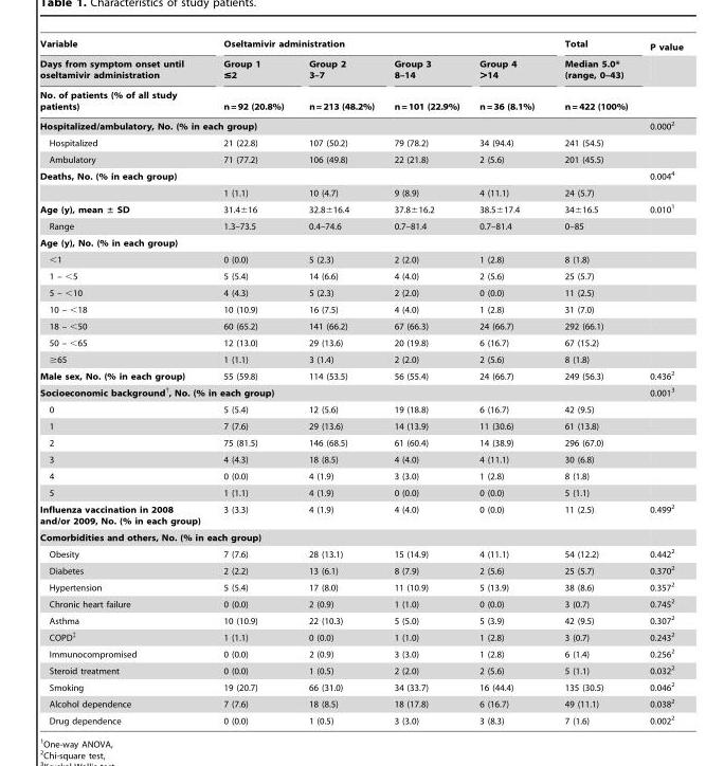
<table><thead><tr><td rowspan="3">Variable Days from symptom onset until oseltamivir administration No. of patients (% of all study patients)</td><td colspan="4">Oseltamivir administration</td><td rowspan="3">Total Median 5.0* (range, 0–43) n=422 (100%)</td><td rowspan="3">P value</td></tr><tr><td rowspan="2">Group 1 ≤2 n=92 (20.8%)</td><td rowspan="2">Group 2 3–7 n=213 (48.2%)</td><td rowspan="2">Group 3 8–14 n=101 (22.9%)</td><td rowspan="2">Group 4 &gt;14 n=36 (8.1%)</td></tr><tr></tr></thead><tbody><tr><td colspan="6">Hospitalized/ambulatory, No. (% in each group)</td><td>0.000<sup>2</sup></td></tr><tr><td>Hospitalized</td><td>21 (22.8)</td><td>107 (50.2)</td><td>79 (78.2)</td><td>34 (94.4)</td><td>241 (54.5)</td><td></td></tr><tr><td>Ambulatory</td><td>71 (77.2)</td><td>106 (49.8)</td><td>22 (21.8)</td><td>2 (5.6)</td><td>201 (45.5)</td><td></td></tr><tr><td colspan="6">Deaths, No. (% in each group)</td><td>0.004<sup>4</sup></td></tr><tr><td></td><td>1 (1.1)</td><td>10 (4.7)</td><td>9 (8.9)</td><td>4 (11.1)</td><td>24 (5.7)</td><td></td></tr><tr><td>Age (y), mean ± SD</td><td>31.4±16</td><td>32.8±16.4</td><td>37.8±16.2</td><td>38.5±17.4</td><td>34±16.5</td><td>0.010<sup>1</sup></td></tr><tr><td>Range</td><td>1.3–73.5</td><td>0.4–74.6</td><td>0.7–81.4</td><td>0.7–81.4</td><td>0–85</td><td></td></tr><tr><td colspan="7">Age (y), No. (% in each group)</td></tr><tr><td>&lt;1</td><td>0 (0.0)</td><td>5 (2.3)</td><td>2 (2.0)</td><td>1 (2.8)</td><td>8 (1.8)</td><td></td></tr><tr><td>1 – &lt;5</td><td>5 (5.4)</td><td>14 (6.6)</td><td>4 (4.0)</td><td>2 (5.6)</td><td>25 (5.7)</td><td></td></tr><tr><td>5 – &lt;10</td><td>4 (4.3)</td><td>5 (2.3)</td><td>2 (2.0)</td><td>0 (0.0)</td><td>11 (2.5)</td><td></td></tr><tr><td>10 – &lt;18</td><td>10 (10.9)</td><td>16 (7.5)</td><td>4 (4.0)</td><td>1 (2.8)</td><td>31 (7.0)</td><td></td></tr><tr><td>18 – &lt;50</td><td>60 (65.2)</td><td>141 (66.2)</td><td>67 (66.3)</td><td>24 (66.7)</td><td>292 (66.1)</td><td></td></tr><tr><td>50 – &lt;65</td><td>12 (13.0)</td><td>29 (13.6)</td><td>20 (19.8)</td><td>6 (16.7)</td><td>67 (15.2)</td><td></td></tr><tr><td>≥65</td><td>1 (1.1)</td><td>3 (1.4)</td><td>2 (2.0)</td><td>2 (5.6)</td><td>8 (1.8)</td><td></td></tr><tr><td>Male sex, No. (% in each group)</td><td>55 (59.8)</td><td>114 (53.5)</td><td>56 (55.4)</td><td>24 (66.7)</td><td>249 (56.3)</td><td>0.436<sup>2</sup></td></tr><tr><td colspan="6">Socioeconomic background†, No. (% in each group)</td><td>0.001<sup>3</sup></td></tr><tr><td>0</td><td>5 (5.4)</td><td>12 (5.6)</td><td>19 (18.8)</td><td>6 (16.7)</td><td>42 (9.5)</td><td></td></tr><tr><td>1</td><td>7 (7.6)</td><td>29 (13.6)</td><td>14 (13.9)</td><td>11 (30.6)</td><td>61 (13.8)</td><td></td></tr><tr><td>2</td><td>75 (81.5)</td><td>146 (68.5)</td><td>61 (60.4)</td><td>14 (38.9)</td><td>296 (67.0)</td><td></td></tr><tr><td>3</td><td>4 (4.3)</td><td>18 (8.5)</td><td>4 (4.0)</td><td>4 (11.1)</td><td>30 (6.8)</td><td></td></tr><tr><td>4</td><td>0 (0.0)</td><td>4 (1.9)</td><td>3 (3.0)</td><td>1 (2.8)</td><td>8 (1.8)</td><td></td></tr><tr><td>5</td><td>1 (1.1)</td><td>4 (1.9)</td><td>0 (0.0)</td><td>0 (0.0)</td><td>5 (1.1)</td><td></td></tr><tr><td>Influenza vaccination in 2008 and/or 2009, No. (% in each group)</td><td>3 (3.3)</td><td>4 (1.9)</td><td>4 (4.0)</td><td>0 (0.0)</td><td>11 (2.5)</td><td>0.499<sup>2</sup></td></tr><tr><td colspan="7">Comorbidities and others, No. (% in each group)</td></tr><tr><td>Obesity</td><td>7 (7.6)</td><td>28 (13.1)</td><td>15 (14.9)</td><td>4 (11.1)</td><td>54 (12.2)</td><td>0.442<sup>2</sup></td></tr><tr><td>Diabetes</td><td>2 (2.2)</td><td>13 (6.1)</td><td>8 (7.9)</td><td>2 (5.6)</td><td>25 (5.7)</td><td>0.370<sup>2</sup></td></tr><tr><td>Hypertension</td><td>5 (5.4)</td><td>17 (8.0)</td><td>11 (10.9)</td><td>5 (13.9)</td><td>38 (8.6)</td><td>0.357<sup>2</sup></td></tr><tr><td>Chronic heart failure</td><td>0 (0.0)</td><td>2 (0.9)</td><td>1 (1.0)</td><td>0 (0.0)</td><td>3 (0.7)</td><td>0.745<sup>2</sup></td></tr><tr><td>Asthma</td><td>10 (10.9)</td><td>22 (10.3)</td><td>5 (5.0)</td><td>5 (3.9)</td><td>42 (9.5)</td><td>0.307<sup>2</sup></td></tr><tr><td>COPD‡</td><td>1 (1.1)</td><td>0 (0.0)</td><td>1 (1.0)</td><td>1 (2.8)</td><td>3 (0.7)</td><td>0.243<sup>2</sup></td></tr><tr><td>Immunocompromised</td><td>0 (0.0)</td><td>2 (0.9)</td><td>3 (3.0)</td><td>1 (2.8)</td><td>6 (1.4)</td><td>0.256<sup>2</sup></td></tr><tr><td>Steroid treatment</td><td>0 (0.0)</td><td>1 (0.5)</td><td>2 (2.0)</td><td>2 (5.6)</td><td>5 (1.1)</td><td>0.032<sup>2</sup></td></tr><tr><td>Smoking</td><td>19 (20.7)</td><td>66 (31.0)</td><td>34 (33.7)</td><td>16 (44.4)</td><td>135 (30.5)</td><td>0.046<sup>2</sup></td></tr><tr><td>Alcohol dependence</td><td>7 (7.6)</td><td>18 (8.5)</td><td>18 (17.8)</td><td>6 (16.7)</td><td>49 (11.1)</td><td>0.038<sup>2</sup></td></tr><tr><td>Drug dependence</td><td>0 (0.0)</td><td>1 (0.5)</td><td>3 (3.0)</td><td>3 (8.3)</td><td>7 (1.6)</td><td>0.002<sup>2</sup></td></tr></tbody></table>